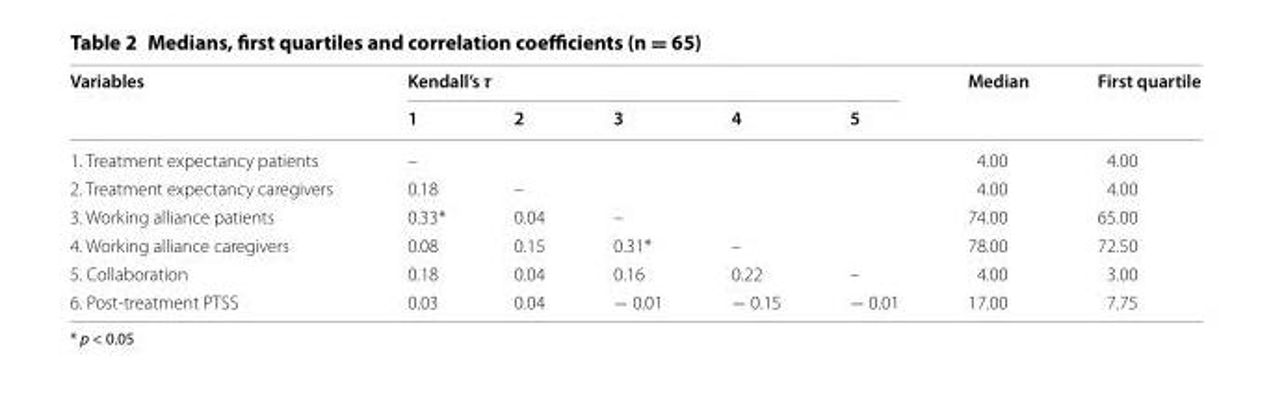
<table><thead><tr><td rowspan="2">Variables</td><td colspan="5">Kendall’s τ</td><td rowspan="2">Median</td><td rowspan="2">First quartile</td></tr><tr><td>1</td><td>2</td><td>3</td><td>4</td><td>5</td></tr></thead><tbody><tr><td>1. Treatment expectancy patients</td><td>–</td><td></td><td></td><td></td><td></td><td>4.00</td><td>4.00</td></tr><tr><td>2. Treatment expectancy caregivers</td><td>0.18</td><td>–</td><td></td><td></td><td></td><td>4.00</td><td>4.00</td></tr><tr><td>3. Working alliance patients</td><td>0.33*</td><td>0.04</td><td>–</td><td></td><td></td><td>74.00</td><td>65.00</td></tr><tr><td>4. Working alliance caregivers</td><td>0.08</td><td>0.15</td><td>0.31*</td><td>–</td><td></td><td>78.00</td><td>72.50</td></tr><tr><td>5. Collaboration</td><td>0.18</td><td>0.04</td><td>0.16</td><td>0.22</td><td>–</td><td>4.00</td><td>3.00</td></tr><tr><td>6. Post-treatment PTSS</td><td>0.03</td><td>0.04</td><td>− 0.01</td><td>− 0.15</td><td>− 0.01</td><td>17.00</td><td>7.75</td></tr></tbody></table>